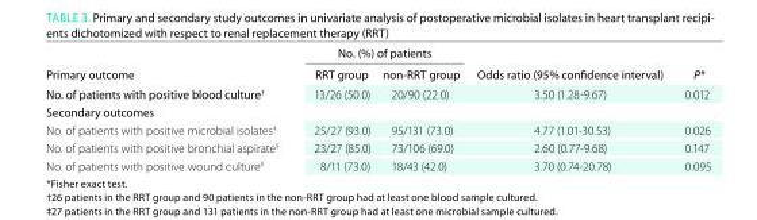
<table><thead><tr><td rowspan="2">Primary outcome</td><td colspan="2">No. (%) of patients</td><td rowspan="2">Odds ratio (95% confidence interval)</td><td rowspan="2">P*</td></tr><tr><td>rrT group</td><td>non-rrT group</td></tr></thead><tbody><tr><td>No. of patients with positive blood culture<sup>†</sup></td><td>13/26 (50.0)</td><td>20/90 (22.0)</td><td>3.50 (1.28-9.67)</td><td>0.012</td></tr><tr><td colspan="5">Secondary outcomes</td></tr><tr><td>No. of patients with positive microbial isolates<sup>‡</sup></td><td>25/27 (93.0)</td><td>95/131 (73.0)</td><td>4.77 (1.01-30.53)</td><td>0.026</td></tr><tr><td>No. of patients with positive bronchial aspirate<sup>§</sup></td><td>23/27 (85.0)</td><td>73/106 (69.0)</td><td>2.60 (0.77-9.68)</td><td>0.147</td></tr><tr><td>No. of patients with positive wound cultureII</td><td>8/11 (73.0)</td><td>18/43 (42.0)</td><td>3.70 (0.74-20.78)</td><td>0.095</td></tr></tbody></table>